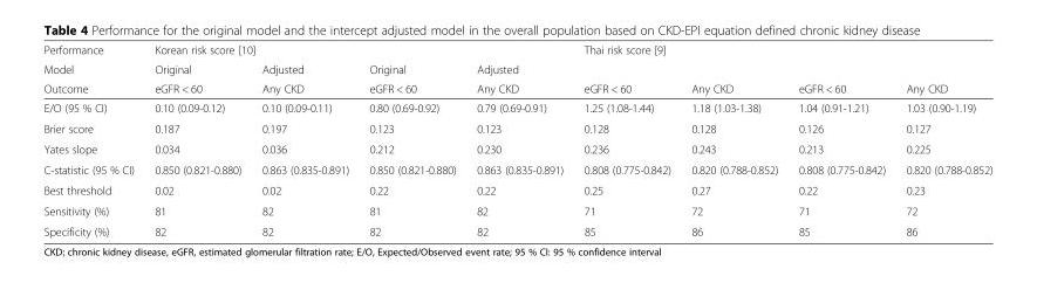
<table><thead><tr><td rowspan="3">Performance Model Outcome</td><td colspan="4">Korean risk score [10]</td><td colspan="4">Thai risk score [9]</td></tr><tr><td rowspan="2">Original eGFR &lt; 60</td><td rowspan="2">Adjusted Any CKD</td><td rowspan="2">Original eGFR &lt; 60</td><td rowspan="2">Adjusted Any CKD</td><td rowspan="2">eGFR &lt; 60</td><td rowspan="2">Any CKD</td><td rowspan="2">eGFR &lt; 60</td><td rowspan="2">Any CKD</td></tr><tr></tr></thead><tbody><tr><td>E/O (95 % CI)</td><td>0.10 (0.09-0.12)</td><td>0.10 (0.09-0.11)</td><td>0.80 (0.69-0.92)</td><td>0.79 (0.69-0.91)</td><td>1.25 (1.08-1.44)</td><td>1.18 (1.03-1.38)</td><td>1.04 (0.91-1.21)</td><td>1.03 (0.90-1.19)</td></tr><tr><td>Brier score</td><td>0.187</td><td>0.197</td><td>0.123</td><td>0.123</td><td>0.128</td><td>0.128</td><td>0.126</td><td>0.127</td></tr><tr><td>Yates slope</td><td>0.034</td><td>0.036</td><td>0.212</td><td>0.230</td><td>0.236</td><td>0.243</td><td>0.213</td><td>0.225</td></tr><tr><td>C-statistic (95 % CI)</td><td>0.850 (0.821-0.880)</td><td>0.863 (0.835-0.891)</td><td>0.850 (0.821-0.880)</td><td>0.863 (0.835-0.891)</td><td>0.808 (0.775-0.842)</td><td>0.820 (0.788-0.852)</td><td>0.808 (0.775-0.842)</td><td>0.820 (0.788-0.852)</td></tr><tr><td>Best threshold</td><td>0.02</td><td>0.02</td><td>0.22</td><td>0.22</td><td>0.25</td><td>0.27</td><td>0.22</td><td>0.23</td></tr><tr><td>Sensitivity (%)</td><td>81</td><td>82</td><td>81</td><td>82</td><td>71</td><td>72</td><td>71</td><td>72</td></tr><tr><td>Specificity (%)</td><td>82</td><td>82</td><td>82</td><td>82</td><td>85</td><td>86</td><td>85</td><td>86</td></tr></tbody></table>